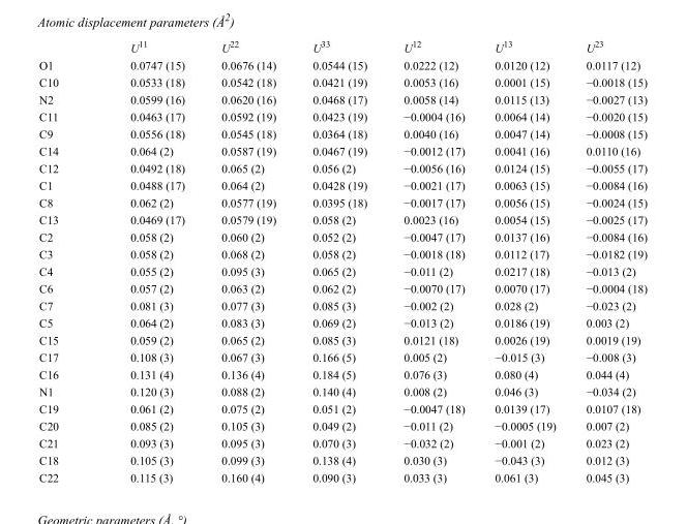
<table><thead><tr><td></td><td>U<sup>11</sup></td><td>U<sup>22</sup></td><td>U<sup>33</sup></td><td>U<sup>12</sup></td><td>U<sup>13</sup></td><td>U<sup>23</sup></td></tr></thead><tbody><tr><td>O1</td><td>0.0747 (15)</td><td>0.0676 (14)</td><td>0.0544 (15)</td><td>0.0222 (12)</td><td>0.0120 (12)</td><td>0.0117 (12)</td></tr><tr><td>C10</td><td>0.0533 (18)</td><td>0.0542 (18)</td><td>0.0421 (19)</td><td>0.0053 (16)</td><td>0.0001 (15)</td><td>−0.0018 (15)</td></tr><tr><td>N2</td><td>0.0599 (16)</td><td>0.0620 (16)</td><td>0.0468 (17)</td><td>0.0058 (14)</td><td>0.0115 (13)</td><td>−0.0027 (13)</td></tr><tr><td>C11</td><td>0.0463 (17)</td><td>0.0592 (19)</td><td>0.0423 (19)</td><td>−0.0004 (16)</td><td>0.0064 (14)</td><td>−0.0020 (15)</td></tr><tr><td>C9</td><td>0.0556 (18)</td><td>0.0545 (18)</td><td>0.0364 (18)</td><td>0.0040 (16)</td><td>0.0047 (14)</td><td>−0.0008 (15)</td></tr><tr><td>C14</td><td>0.064 (2)</td><td>0.0587 (19)</td><td>0.0467 (19)</td><td>−0.0012 (17)</td><td>0.0041 (16)</td><td>0.0110 (16)</td></tr><tr><td>C12</td><td>0.0492 (18)</td><td>0.065 (2)</td><td>0.056 (2)</td><td>−0.0056 (16)</td><td>0.0124 (15)</td><td>−0.0055 (17)</td></tr><tr><td>C1</td><td>0.0488 (17)</td><td>0.064 (2)</td><td>0.0428 (19)</td><td>−0.0021 (17)</td><td>0.0063 (15)</td><td>−0.0084 (16)</td></tr><tr><td>C8</td><td>0.062 (2)</td><td>0.0577 (19)</td><td>0.0395 (18)</td><td>−0.0017 (17)</td><td>0.0056 (15)</td><td>−0.0024 (15)</td></tr><tr><td>C13</td><td>0.0469 (17)</td><td>0.0579 (19)</td><td>0.058 (2)</td><td>0.0023 (16)</td><td>0.0054 (15)</td><td>−0.0025 (17)</td></tr><tr><td>C2</td><td>0.058 (2)</td><td>0.060 (2)</td><td>0.052 (2)</td><td>−0.0047 (17)</td><td>0.0137 (16)</td><td>−0.0084 (16)</td></tr><tr><td>C3</td><td>0.058 (2)</td><td>0.068 (2)</td><td>0.058 (2)</td><td>−0.0018 (18)</td><td>0.0112 (17)</td><td>−0.0182 (19)</td></tr><tr><td>C4</td><td>0.055 (2)</td><td>0.095 (3)</td><td>0.065 (2)</td><td>−0.011 (2)</td><td>0.0217 (18)</td><td>−0.013 (2)</td></tr><tr><td>C6</td><td>0.057 (2)</td><td>0.063 (2)</td><td>0.062 (2)</td><td>−0.0070 (17)</td><td>0.0070 (17)</td><td>−0.0004 (18)</td></tr><tr><td>C7</td><td>0.081 (3)</td><td>0.077 (3)</td><td>0.085 (3)</td><td>−0.002 (2)</td><td>0.028 (2)</td><td>−0.023 (2)</td></tr><tr><td>C5</td><td>0.064 (2)</td><td>0.083 (3)</td><td>0.069 (2)</td><td>−0.013 (2)</td><td>0.0186 (19)</td><td>0.003 (2)</td></tr><tr><td>C15</td><td>0.059 (2)</td><td>0.065 (2)</td><td>0.085 (3)</td><td>0.0121 (18)</td><td>0.0026 (19)</td><td>0.0019 (19)</td></tr><tr><td>C17</td><td>0.108 (3)</td><td>0.067 (3)</td><td>0.166 (5)</td><td>0.005 (2)</td><td>−0.015 (3)</td><td>−0.008 (3)</td></tr><tr><td>C16</td><td>0.131 (4)</td><td>0.136 (4)</td><td>0.184 (5)</td><td>0.076 (3)</td><td>0.080 (4)</td><td>0.044 (4)</td></tr><tr><td>N1</td><td>0.120 (3)</td><td>0.088 (2)</td><td>0.140 (4)</td><td>0.008 (2)</td><td>0.046 (3)</td><td>−0.034 (2)</td></tr><tr><td>C19</td><td>0.061 (2)</td><td>0.075 (2)</td><td>0.051 (2)</td><td>−0.0047 (18)</td><td>0.0139 (17)</td><td>0.0107 (18)</td></tr><tr><td>C20</td><td>0.085 (2)</td><td>0.105 (3)</td><td>0.049 (2)</td><td>−0.011 (2)</td><td>−0.0005 (19)</td><td>0.007 (2)</td></tr><tr><td>C21</td><td>0.093 (3)</td><td>0.095 (3)</td><td>0.070 (3)</td><td>−0.032 (2)</td><td>−0.001 (2)</td><td>0.023 (2)</td></tr><tr><td>C18</td><td>0.105 (3)</td><td>0.099 (3)</td><td>0.138 (4)</td><td>0.030 (3)</td><td>−0.043 (3)</td><td>0.012 (3)</td></tr><tr><td>C22</td><td>0.115 (3)</td><td>0.160 (4)</td><td>0.090 (3)</td><td>0.033 (3)</td><td>0.061 (3)</td><td>0.045 (3)</td></tr></tbody></table>